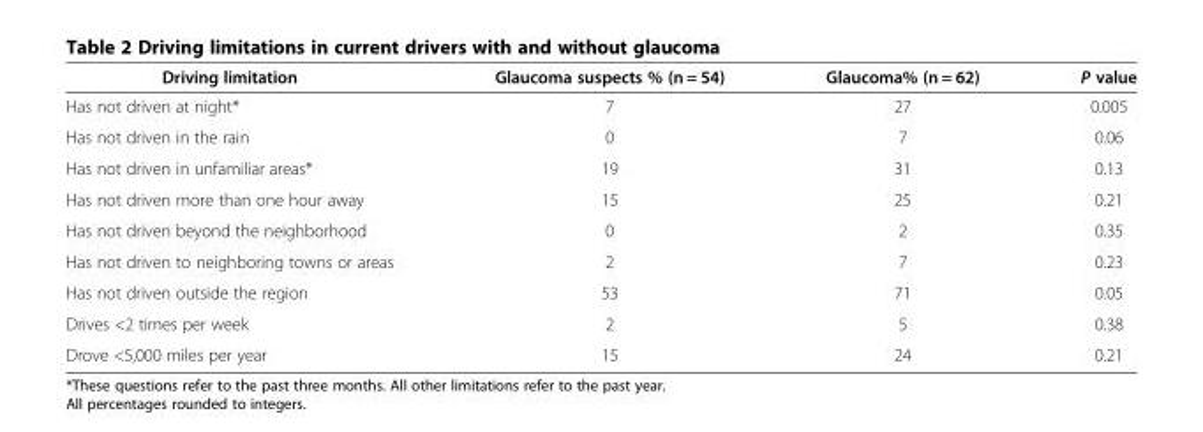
<table><thead><tr><td>Driving limitation</td><td>Glaucoma suspects % (n = 54)</td><td>Glaucoma% (n = 62)</td><td>P value</td></tr></thead><tbody><tr><td>Has not driven at night*</td><td>7</td><td>27</td><td>0.005</td></tr><tr><td>Has not driven in the rain</td><td>0</td><td>7</td><td>0.06</td></tr><tr><td>Has not driven in unfamiliar areas*</td><td>19</td><td>31</td><td>0.13</td></tr><tr><td>Has not driven more than one hour away</td><td>15</td><td>25</td><td>0.21</td></tr><tr><td>Has not driven beyond the neighborhood</td><td>0</td><td>2</td><td>0.35</td></tr><tr><td>Has not driven to neighboring towns or areas</td><td>2</td><td>7</td><td>0.23</td></tr><tr><td>Has not driven outside the region</td><td>53</td><td>71</td><td>0.05</td></tr><tr><td>Drives &lt;2 times per week</td><td>2</td><td>5</td><td>0.38</td></tr><tr><td>Drove &lt;5,000 miles per year</td><td>15</td><td>24</td><td>0.21</td></tr></tbody></table>